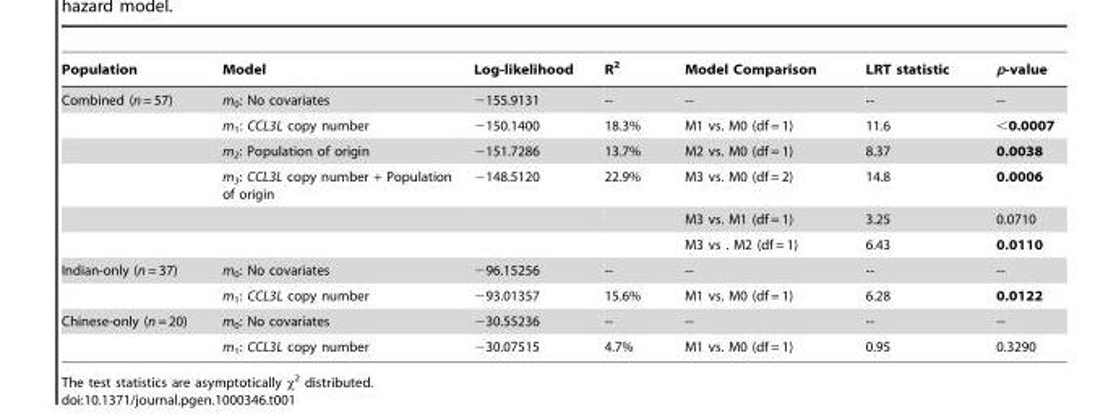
<table><thead><tr><td>Population</td><td>Model</td><td>Log-likelihood</td><td>R<sup>2</sup></td><td>Model Comparison</td><td>LRT statistic</td><td>p-value</td></tr></thead><tbody><tr><td rowspan="6">Combined (n = 57)</td><td>m<sub>0</sub>: No covariates</td><td>−155.9131</td><td>--</td><td>--</td><td>--</td><td>--</td></tr><tr><td>m<sub>1</sub>: CCL3L copy number</td><td>−150.1400</td><td>18.3%</td><td>M1 vs. M0 (df = 1)</td><td>11.6</td><td>&lt;0.0007</td></tr><tr><td>m<sub>2</sub>: Population of origin</td><td>−151.7286</td><td>13.7%</td><td>M2 vs. M0 (df = 1)</td><td>8.37</td><td>0.0038</td></tr><tr><td>m<sub>3</sub>: CCL3L copy number + Population of origin</td><td>−148.5120</td><td>22.9%</td><td>M3 vs. M0 (df = 2)</td><td>14.8</td><td>0.0006</td></tr><tr><td></td><td></td><td></td><td>M3 vs. M1 (df = 1)</td><td>3.25</td><td>0.0710</td></tr><tr><td></td><td></td><td></td><td>M3 vs . M2 (df = 1)</td><td>6.43</td><td>0.0110</td></tr><tr><td rowspan="2">Indian-only (n = 37)</td><td>m<sub>0</sub>: No covariates</td><td>−96.15256</td><td>--</td><td>--</td><td>--</td><td>--</td></tr><tr><td>m<sub>1</sub>: CCL3L copy number</td><td>−93.01357</td><td>15.6%</td><td>M1 vs. M0 (df = 1)</td><td>6.28</td><td>0.0122</td></tr><tr><td rowspan="2">Chinese-only (n = 20)</td><td>m<sub>0</sub>: No covariates</td><td>−30.55236</td><td>--</td><td>--</td><td>--</td><td>--</td></tr><tr><td>m<sub>1</sub>: CCL3L copy number</td><td>−30.07515</td><td>4.7%</td><td>M1 vs. M0 (df = 1)</td><td>0.95</td><td>0.3290</td></tr></tbody></table>